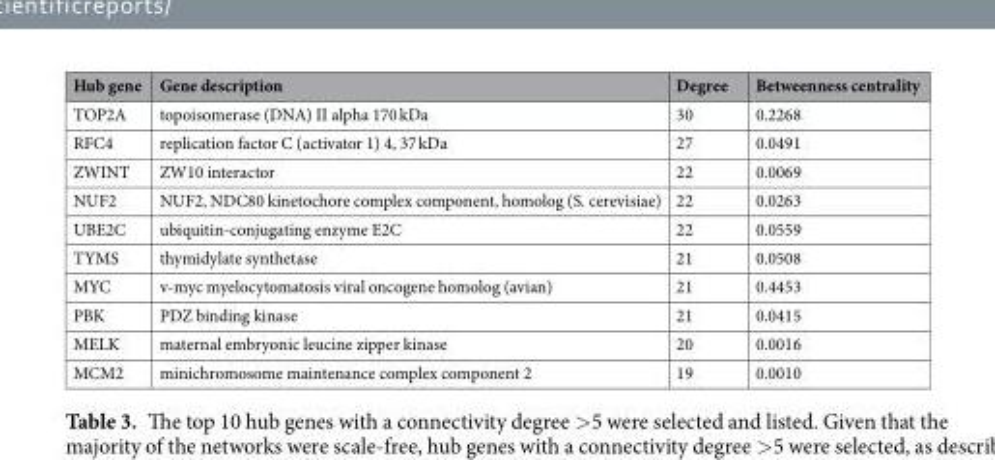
<table><thead><tr><td>Hub gene</td><td>Gene description</td><td>Degree</td><td>Betweenness centrality</td></tr></thead><tbody><tr><td>TOP2A</td><td>topoisomerase (DNA) II alpha 170 kDa</td><td>30</td><td>0.2268</td></tr><tr><td>RFC4</td><td>replication factor C (activator 1) 4, 37 kDa</td><td>27</td><td>0.0491</td></tr><tr><td>ZWINT</td><td>ZW10 interactor</td><td>22</td><td>0.0069</td></tr><tr><td>NUF2</td><td>NUF2, NDC80 kinetochore complex component, homolog (S. cerevisiae)</td><td>22</td><td>0.0263</td></tr><tr><td>UBE2C</td><td>ubiquitin-conjugating enzyme E2C</td><td>22</td><td>0.0559</td></tr><tr><td>TYMS</td><td>thymidylate synthetase</td><td>21</td><td>0.0508</td></tr><tr><td>MYC</td><td>v-myc myelocytomatosis viral oncogene homolog (avian)</td><td>21</td><td>0.4453</td></tr><tr><td>PBK</td><td>PDZ binding kinase</td><td>21</td><td>0.0415</td></tr><tr><td>MELK</td><td>maternal embryonic leucine zipper kinase</td><td>20</td><td>0.0016</td></tr><tr><td>MCM2</td><td>minichromosome maintenance complex component 2</td><td>19</td><td>0.0010</td></tr></tbody></table>